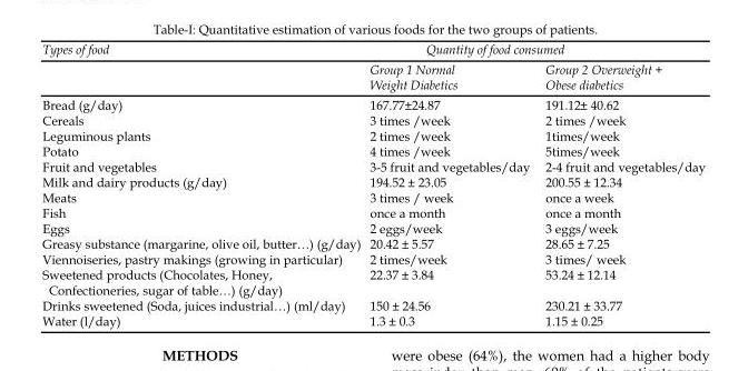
<table><thead><tr><td rowspan="2">Types of food</td><td colspan="2">Quantity of food consumed</td></tr><tr><td>Group 1 Normal Weight Diabetics</td><td>Group 2 Overweight + Obese diabetics</td></tr></thead><tbody><tr><td>Bread (g/day)</td><td>167.77±24.87</td><td>191.12± 40.62</td></tr><tr><td>Cereals</td><td>3 times /week</td><td>2 times /week</td></tr><tr><td>Leguminous plants</td><td>2 times /week</td><td>1times/week</td></tr><tr><td>Potato</td><td>4 times /week</td><td>5times/week</td></tr><tr><td>Fruit and vegetables</td><td>3-5 fruit and vegetables/day</td><td>2-4 fruit and vegetables/day</td></tr><tr><td>Milk and dairy products (g/day)</td><td>194.52 ± 23.05</td><td>200.55 ± 12.34</td></tr><tr><td>Meats</td><td>3 times / week</td><td>once a week</td></tr><tr><td>Fish</td><td>once a month</td><td>once a month</td></tr><tr><td>Eggs</td><td>2 eggs/week</td><td>3 eggs/week</td></tr><tr><td>Greasy substance (margarine, olive oil, butter…) (g/day)</td><td>20.42 ± 5.57</td><td>28.65 ± 7.25</td></tr><tr><td>Viennoiseries, pastry makings (growing in particular)</td><td>2 times/week</td><td>3 times/ week</td></tr><tr><td>Sweetened products (Chocolates, Honey, Confectioneries, sugar of table…) (g/day)</td><td>22.37 ± 3.84</td><td>53.24 ± 12.14</td></tr><tr><td>Drinks sweetened (Soda, juices industrial…) (ml/day)</td><td>150 ± 24.56</td><td>230.21 ± 33.77</td></tr><tr><td>Water (l/day)</td><td>1.3 ± 0.3</td><td>1.15 ± 0.25</td></tr></tbody></table>